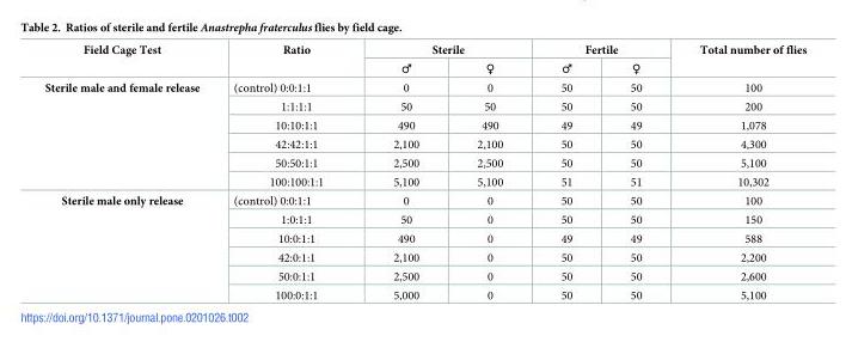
<table><thead><tr><td rowspan="2">Field Cage Test</td><td rowspan="2">Ratio</td><td colspan="2">Sterile</td><td colspan="2">Fertile</td><td rowspan="2">Total number of flies</td></tr><tr><td>♂</td><td>♀</td><td>♂</td><td>♀</td></tr></thead><tbody><tr><td rowspan="6">Sterile male and female release</td><td>(control) 0:0:1:1</td><td>0</td><td>0</td><td>50</td><td>50</td><td>100</td></tr><tr><td>1:1:1:1</td><td>50</td><td>50</td><td>50</td><td>50</td><td>200</td></tr><tr><td>10:10:1:1</td><td>490</td><td>490</td><td>49</td><td>49</td><td>1,078</td></tr><tr><td>42:42:1:1</td><td>2,100</td><td>2,100</td><td>50</td><td>50</td><td>4,300</td></tr><tr><td>50:50:1:1</td><td>2,500</td><td>2,500</td><td>50</td><td>50</td><td>5,100</td></tr><tr><td>100:100:1:1</td><td>5,100</td><td>5,100</td><td>51</td><td>51</td><td>10,302</td></tr><tr><td rowspan="6">Sterile male only release</td><td>(control) 0:0:1:1</td><td>0</td><td>0</td><td>50</td><td>50</td><td>100</td></tr><tr><td>1:0:1:1</td><td>50</td><td>0</td><td>50</td><td>50</td><td>150</td></tr><tr><td>10:0:1:1</td><td>490</td><td>0</td><td>49</td><td>49</td><td>588</td></tr><tr><td>42:0:1:1</td><td>2,100</td><td>0</td><td>50</td><td>50</td><td>2,200</td></tr><tr><td>50:0:1:1</td><td>2,500</td><td>0</td><td>50</td><td>50</td><td>2,600</td></tr><tr><td>100:0:1:1</td><td>5,000</td><td>0</td><td>50</td><td>50</td><td>5,100</td></tr></tbody></table>